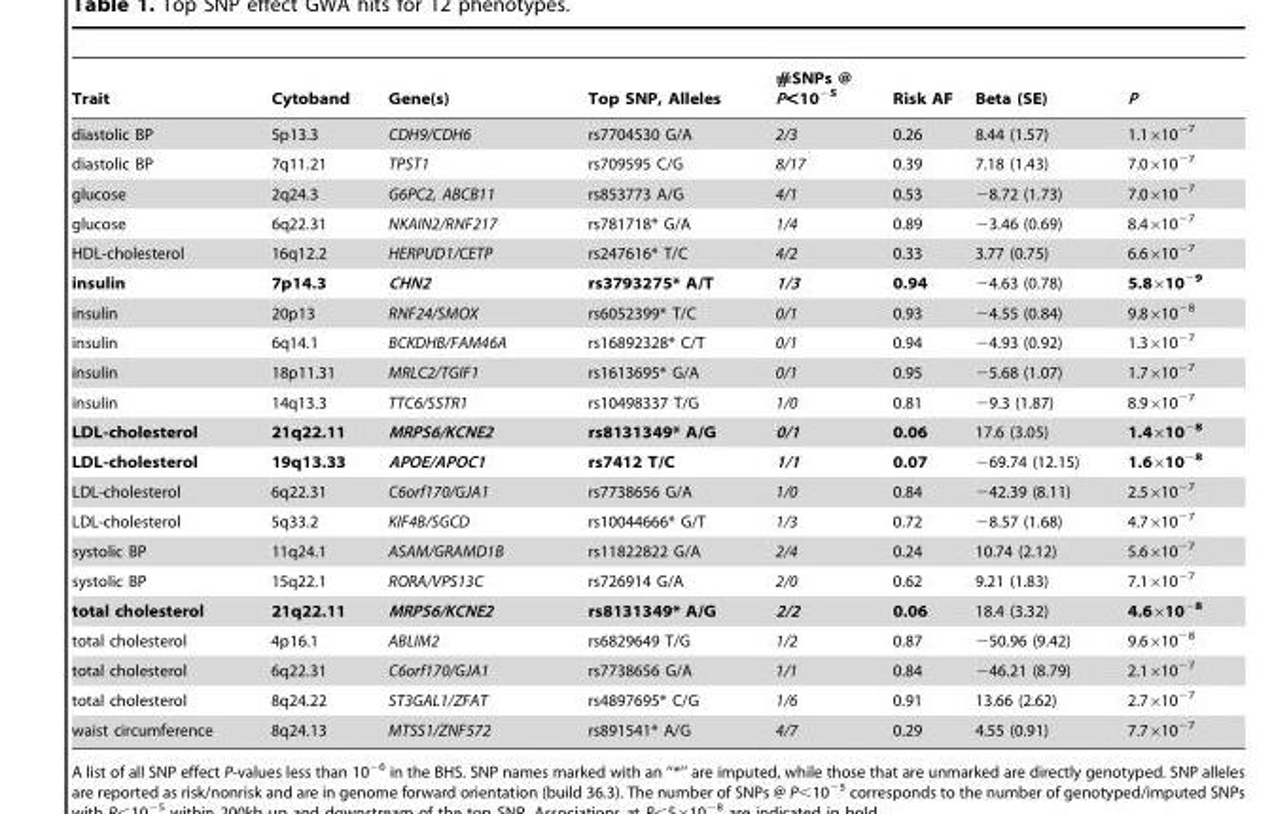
<table><thead><tr><td>Trait</td><td>Cytoband</td><td>Gene(s)</td><td>Top SNP, Alleles</td><td>#SNPs @ P&lt;10<sup>−5</sup></td><td>Risk AF</td><td>Beta (SE)</td><td>P</td></tr></thead><tbody><tr><td>diastolic BP</td><td>5p13.3</td><td>CDH9/CDH6</td><td>rs7704530 G/A</td><td>2/3</td><td>0.26</td><td>8.44 (1.57)</td><td>1.1×10<sup>−7</sup></td></tr><tr><td>diastolic BP</td><td>7q11.21</td><td>TPST1</td><td>rs709595 C/G</td><td>8/17</td><td>0.39</td><td>7.18 (1.43)</td><td>7.0×10<sup>−7</sup></td></tr><tr><td>glucose</td><td>2q24.3</td><td>G6PC2, ABCB11</td><td>rs853773 A/G</td><td>4/1</td><td>0.53</td><td>−8.72 (1.73)</td><td>7.0×10<sup>−7</sup></td></tr><tr><td>glucose</td><td>6q22.31</td><td>NKAIN2/RNF217</td><td>rs781718* G/A</td><td>1/4</td><td>0.89</td><td>−3.46 (0.69)</td><td>8.4×10<sup>−7</sup></td></tr><tr><td>HDL-cholesterol</td><td>16q12.2</td><td>HERPUD1/CETP</td><td>rs247616* T/C</td><td>4/2</td><td>0.33</td><td>3.77 (0.75)</td><td>6.6×10<sup>−7</sup></td></tr><tr><td>insulin</td><td>7p14.3</td><td>CHN2</td><td>rs3793275* A/T</td><td>1/3</td><td>0.94</td><td>−4.63 (0.78)</td><td>5.8×10<sup>−9</sup></td></tr><tr><td>insulin</td><td>20p13</td><td>RNF24/SMOX</td><td>rs6052399* T/C</td><td>0/1</td><td>0.93</td><td>−4.55 (0.84)</td><td>9.8×10<sup>−8</sup></td></tr><tr><td>insulin</td><td>6q14.1</td><td>BCKDHB/FAM46A</td><td>rs16892328* C/T</td><td>0/1</td><td>0.94</td><td>−4.93 (0.92)</td><td>1.3×10<sup>−7</sup></td></tr><tr><td>insulin</td><td>18p11.31</td><td>MRLC2/TGIF1</td><td>rs1613695* G/A</td><td>0/1</td><td>0.95</td><td>−5.68 (1.07)</td><td>1.7×10<sup>−7</sup></td></tr><tr><td>insulin</td><td>14q13.3</td><td>TTC6/SSTR1</td><td>rs10498337 T/G</td><td>1/0</td><td>0.81</td><td>−9.3 (1.87)</td><td>8.9×10<sup>−7</sup></td></tr><tr><td>LDL-cholesterol</td><td>21q22.11</td><td>MRPS6/KCNE2</td><td>rs8131349* A/G</td><td>0/1</td><td>0.06</td><td>17.6 (3.05)</td><td>1.4×10<sup>−8</sup></td></tr><tr><td>LDL-cholesterol</td><td>19q13.33</td><td>APOE/APOC1</td><td>rs7412 T/C</td><td>1/1</td><td>0.07</td><td>−69.74 (12.15)</td><td>1.6×10<sup>−8</sup></td></tr><tr><td>LDL-cholesterol</td><td>6q22.31</td><td>C6orf170/GJA1</td><td>rs7738656 G/A</td><td>1/0</td><td>0.84</td><td>−42.39 (8.11)</td><td>2.5×10<sup>−7</sup></td></tr><tr><td>LDL-cholesterol</td><td>5q33.2</td><td>KIF4B/SGCD</td><td>rs10044666* G/T</td><td>1/3</td><td>0.72</td><td>−8.57 (1.68)</td><td>4.7×10<sup>−7</sup></td></tr><tr><td>systolic BP</td><td>11q24.1</td><td>ASAM/GRAMD1B</td><td>rs11822822 G/A</td><td>2/4</td><td>0.24</td><td>10.74 (2.12)</td><td>5.6×10<sup>−7</sup></td></tr><tr><td>systolic BP</td><td>15q22.1</td><td>RORA/VPS13C</td><td>rs726914 G/A</td><td>2/0</td><td>0.62</td><td>9.21 (1.83)</td><td>7.1×10<sup>−7</sup></td></tr><tr><td>total cholesterol</td><td>21q22.11</td><td>MRPS6/KCNE2</td><td>rs8131349* A/G</td><td>2/2</td><td>0.06</td><td>18.4 (3.32)</td><td>4.6×10<sup>−8</sup></td></tr><tr><td>total cholesterol</td><td>4p16.1</td><td>ABLIM2</td><td>rs6829649 T/G</td><td>1/2</td><td>0.87</td><td>−50.96 (9.42)</td><td>9.6×10<sup>−8</sup></td></tr><tr><td>total cholesterol</td><td>6q22.31</td><td>C6orf170/GJA1</td><td>rs7738656 G/A</td><td>1/1</td><td>0.84</td><td>−46.21 (8.79)</td><td>2.1×10<sup>−7</sup></td></tr><tr><td>total cholesterol</td><td>8q24.22</td><td>ST3GAL1/ZFAT</td><td>rs4897695* C/G</td><td>1/6</td><td>0.91</td><td>13.66 (2.62)</td><td>2.7×10<sup>−7</sup></td></tr><tr><td>waist circumference</td><td>8q24.13</td><td>MTSS1/ZNF572</td><td>rs891541* A/G</td><td>4/7</td><td>0.29</td><td>4.55 (0.91)</td><td>7.7×10<sup>−7</sup></td></tr></tbody></table>